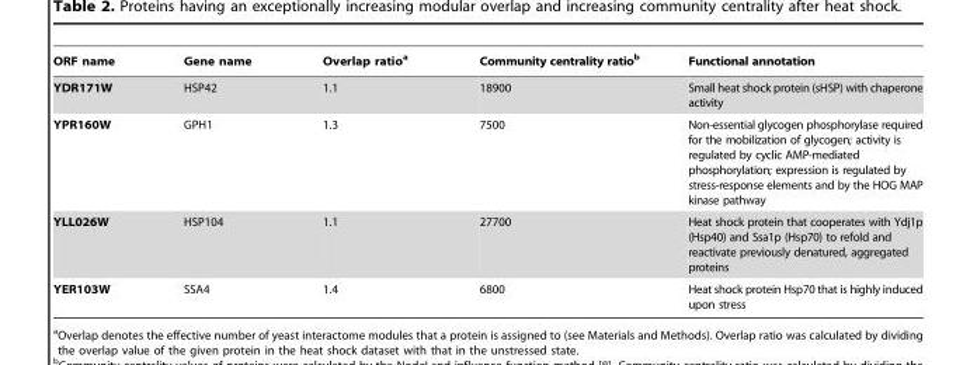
<table><thead><tr><td>ORF name</td><td>Gene name</td><td>Overlap ratio<sup>a</sup></td><td>Community centrality ratio<sup>b</sup></td><td>Functional annotation</td></tr></thead><tbody><tr><td>YDR171W</td><td>HSP42</td><td>1.1</td><td>18900</td><td>Small heat shock protein (sHSP) with chaperone activity</td></tr><tr><td>YPR160W</td><td>GPH1</td><td>1.3</td><td>7500</td><td>Non-essential glycogen phosphorylase required for the mobilization of glycogen; activity is regulated by cyclic AMP-mediated phosphorylation; expression is regulated by stress-response elements and by the HOG MAP kinase pathway</td></tr><tr><td>YLL026W</td><td>HSP104</td><td>1.1</td><td>27700</td><td>Heat shock protein that cooperates with Ydj1p (Hsp40) and Ssa1p (Hsp70) to refold and reactivate previously denatured, aggregated proteins</td></tr><tr><td>YER103W</td><td>SSA4</td><td>1.4</td><td>6800</td><td>Heat shock protein Hsp70 that is highly induced upon stress</td></tr></tbody></table>